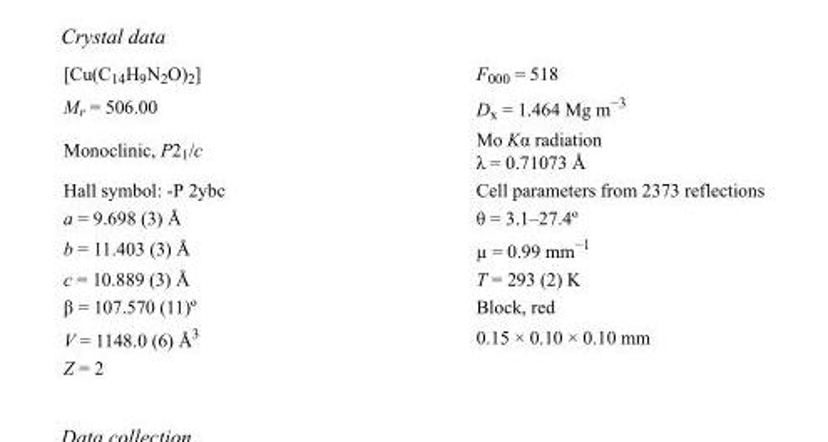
<table><tbody><tr><td>[Cu(C<sub>14</sub>H<sub>9</sub>N<sub>2</sub>O)<sub>2</sub>]</td><td>F<sub>000</sub> = 518</td></tr><tr><td>M<sub>r</sub> = 506.00</td><td>D<sub>x</sub> = 1.464 Mg m<sup>−3</sup></td></tr><tr><td>Monoclinic, P2<sub>1</sub>/c</td><td>Mo Kα radiation λ = 0.71073 Å</td></tr><tr><td>Hall symbol: -P 2ybc</td><td>Cell parameters from 2373 reflections</td></tr><tr><td>a = 9.698 (3) Å</td><td>θ = 3.1–27.4º</td></tr><tr><td>b = 11.403 (3) Å</td><td>µ = 0.99 mm<sup>−1</sup></td></tr><tr><td>c = 10.889 (3) Å</td><td>T = 293 (2) K</td></tr><tr><td>β = 107.570 (11)º</td><td>Block, red</td></tr><tr><td>V = 1148.0 (6) Å<sup>3</sup></td><td>0.15 × 0.10 × 0.10 mm</td></tr><tr><td>Z = 2</td><td></td></tr></tbody></table>